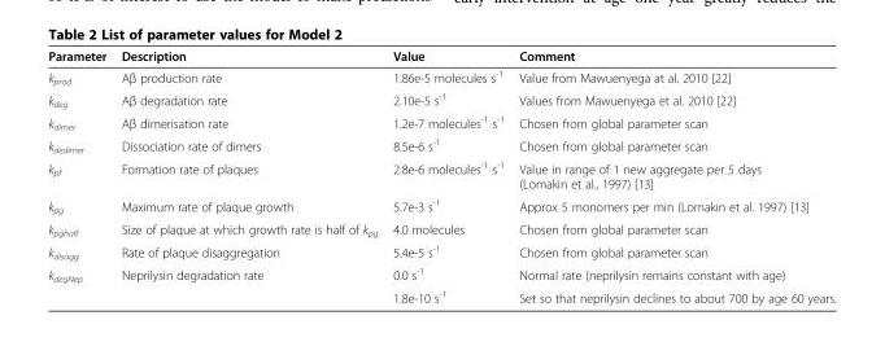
<table><thead><tr><td>Parameter</td><td>Description</td><td>Value</td><td>Comment</td></tr></thead><tbody><tr><td>k<sub>prod</sub></td><td>Aβ production rate</td><td>1.86e-5 molecules s<sup>-1</sup></td><td>Value from Mawuenyega at al. 2010 [22]</td></tr><tr><td>k<sub>deg</sub></td><td>Aβ degradation rate</td><td>2.10e-5 s<sup>-1</sup></td><td>Values from Mawuenyega et al. 2010 [22]</td></tr><tr><td>k<sub>dimer</sub></td><td>Aβ dimerisation rate</td><td>1.2e-7 molecules<sup>-1</sup> s<sup>-1</sup></td><td>Chosen from global parameter scan</td></tr><tr><td>k<sub>dedimer</sub></td><td>Dissociation rate of dimers</td><td>8.5e-6 s<sup>-1</sup></td><td>Chosen from global parameter scan</td></tr><tr><td>k<sub>pf</sub></td><td>Formation rate of plaques</td><td>2.8e-6 molecules<sup>-1</sup> s<sup>-1</sup></td><td>Value in range of 1 new aggregate per 5 days (Lomakin et al., 1997) [13]</td></tr><tr><td>k<sub>pg</sub></td><td>Maximum rate of plaque growth</td><td>5.7e-3 s<sup>-1</sup></td><td>Approx 5 monomers per min (Lomakin et al. 1997) [13]</td></tr><tr><td>k<sub>pghalf</sub></td><td>Size of plaque at which growth rate is half of k<sub>pg</sub></td><td>4.0 molecules</td><td>Chosen from global parameter scan</td></tr><tr><td>k<sub>disagg</sub></td><td>Rate of plaque disaggregation</td><td>5.4e-5 s<sup>-1</sup></td><td>Chosen from global parameter scan</td></tr><tr><td rowspan="2">k<sub>degNep</sub></td><td>Neprilysin degradation rate</td><td>0.0 s<sup>-1</sup></td><td>Normal rate (neprilysin remains constant with age)</td></tr><tr><td></td><td>1.8e-10 s<sup>-1</sup></td><td>Set so that neprilysin declines to about 700 by age 60 years.</td></tr></tbody></table>